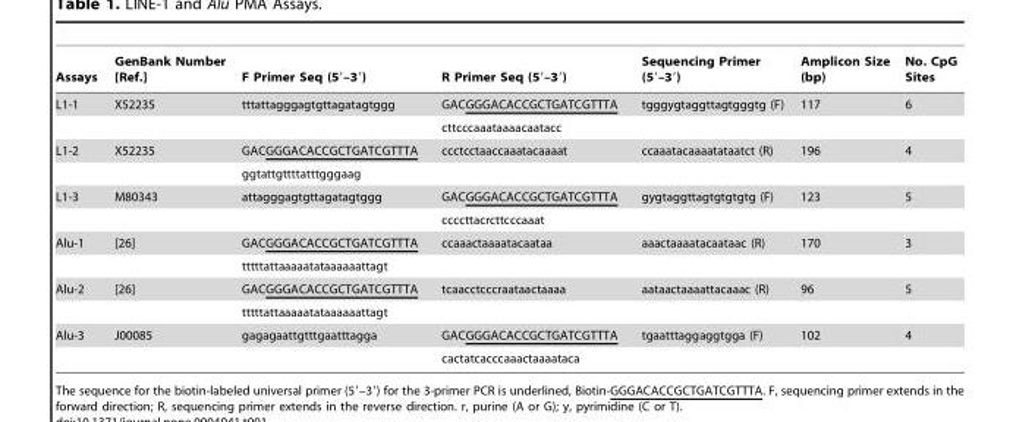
<table><thead><tr><td>Assays</td><td>GenBank Number [Ref.]</td><td>F Primer Seq (5′–3′)</td><td>R Primer Seq (5′–3′)</td><td>Sequencing Primer (5′–3′)</td><td>Amplicon Size (bp)</td><td>No. CpG Sites</td></tr></thead><tbody><tr><td rowspan="2">L1-1</td><td>X52235</td><td>tttattagggagtgttagatagtggg</td><td>GACGGGACACCGCTGATCGTTTA</td><td>tgggygtaggttagtgggtg (F)</td><td>117</td><td>6</td></tr><tr><td></td><td></td><td>cttcccaaataaaacaatacc</td><td></td><td></td><td></td></tr><tr><td rowspan="2">L1-2</td><td>X52235</td><td>GACGGGACACCGCTGATCGTTTA</td><td>ccctcctaaccaaatacaaaat</td><td>ccaaatacaaaatataatct (R)</td><td>196</td><td>4</td></tr><tr><td></td><td>ggtattgttttatttgggaag</td><td></td><td></td><td></td><td></td></tr><tr><td rowspan="2">L1-3</td><td>M80343</td><td>attagggagtgttagatagtggg</td><td>GACGGGACACCGCTGATCGTTTA</td><td>gygtaggttagtgtgtgtg (F)</td><td>123</td><td>5</td></tr><tr><td></td><td></td><td>ccccttacrcttcccaaat</td><td></td><td></td><td></td></tr><tr><td rowspan="2">Alu-1</td><td>[26]</td><td>GACGGGACACCGCTGATCGTTTA</td><td>ccaaactaaaatacaataa</td><td>aaactaaaatacaataac (R)</td><td>170</td><td>3</td></tr><tr><td></td><td>tttttattaaaaatataaaaaattagt</td><td></td><td></td><td></td><td></td></tr><tr><td rowspan="2">Alu-2</td><td>[26]</td><td>GACGGGACACCGCTGATCGTTTA</td><td>tcaacctcccraataactaaaa</td><td>aataactaaaattacaaac (R)</td><td>96</td><td>5</td></tr><tr><td></td><td>tttttattaaaaatataaaaaattagt</td><td></td><td></td><td></td><td></td></tr><tr><td rowspan="2">Alu-3</td><td>J00085</td><td>gagagaattgtttgaatttagga</td><td>GACGGGACACCGCTGATCGTTTA</td><td>tgaatttaggaggtgga (F)</td><td>102</td><td>4</td></tr><tr><td></td><td></td><td>cactatcacccaaactaaaataca</td><td></td><td></td><td></td></tr></tbody></table>